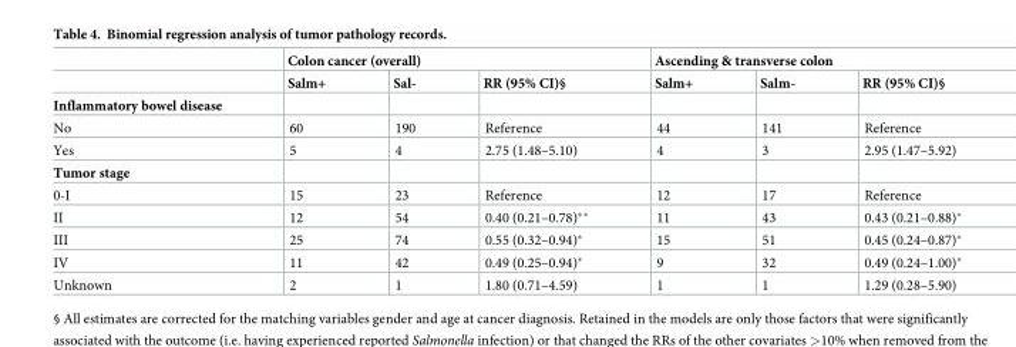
<table><thead><tr><td rowspan="2"></td><td colspan="3">Colon cancer (overall)</td><td colspan="3">Ascending &amp; transverse colon</td></tr><tr><td>Salm+</td><td>Sal-</td><td>RR (95% CI)§</td><td>Salm+</td><td>Salm-</td><td>RR (95% CI)§</td></tr></thead><tbody><tr><td colspan="7">Inflammatory bowel disease</td></tr><tr><td>No</td><td>60</td><td>190</td><td>Reference</td><td>44</td><td>141</td><td>Reference</td></tr><tr><td>Yes</td><td>5</td><td>4</td><td>2.75 (1.48–5.10)</td><td>4</td><td>3</td><td>2.95 (1.47–5.92)</td></tr><tr><td colspan="7">Tumor stage</td></tr><tr><td>0-I</td><td>15</td><td>23</td><td>Reference</td><td>12</td><td>17</td><td>Reference</td></tr><tr><td>II</td><td>12</td><td>54</td><td>0.40 (0.21–0.78)**</td><td>11</td><td>43</td><td>0.43 (0.21–0.88)*</td></tr><tr><td>III</td><td>25</td><td>74</td><td>0.55 (0.32–0.94)*</td><td>15</td><td>51</td><td>0.45 (0.24–0.87)*</td></tr><tr><td>IV</td><td>11</td><td>42</td><td>0.49 (0.25–0.94)*</td><td>9</td><td>32</td><td>0.49 (0.24–1.00)*</td></tr><tr><td>Unknown</td><td>2</td><td>1</td><td>1.80 (0.71–4.59)</td><td>1</td><td>1</td><td>1.29 (0.28–5.90)</td></tr></tbody></table>